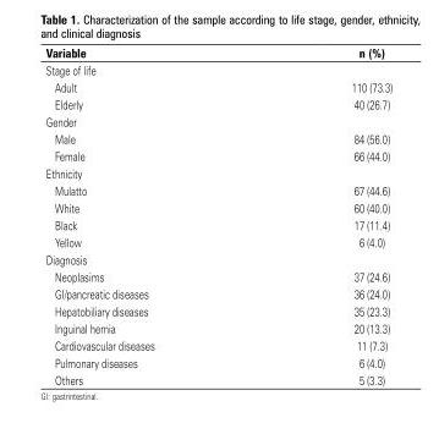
<table><thead><tr><td>Variable</td><td>n (%)</td></tr></thead><tbody><tr><td colspan="2">Stage of life</td></tr><tr><td>Adult</td><td>110 (73.3)</td></tr><tr><td>Elderly</td><td>40 (26.7)</td></tr><tr><td colspan="2">Gender</td></tr><tr><td>Male</td><td>84 (56.0)</td></tr><tr><td>Female</td><td>66 (44.0)</td></tr><tr><td colspan="2">Ethnicity</td></tr><tr><td>Mulatto</td><td>67 (44.6)</td></tr><tr><td>White</td><td>60 (40.0)</td></tr><tr><td>Black</td><td>17 (11.4)</td></tr><tr><td>Yellow</td><td>6 (4.0)</td></tr><tr><td colspan="2">Diagnosis</td></tr><tr><td>Neoplasims</td><td>37 (24.6)</td></tr><tr><td>GI/pancreatic diseases</td><td>36 (24.0)</td></tr><tr><td>Hepatobiliary diseases</td><td>35 (23.3)</td></tr><tr><td>Inguinal hernia</td><td>20 (13.3)</td></tr><tr><td>Cardiovascular diseases</td><td>11 (7.3)</td></tr><tr><td>Pulmonary diseases</td><td>6 (4.0)</td></tr><tr><td>Others</td><td>5 (3.3)</td></tr></tbody></table>